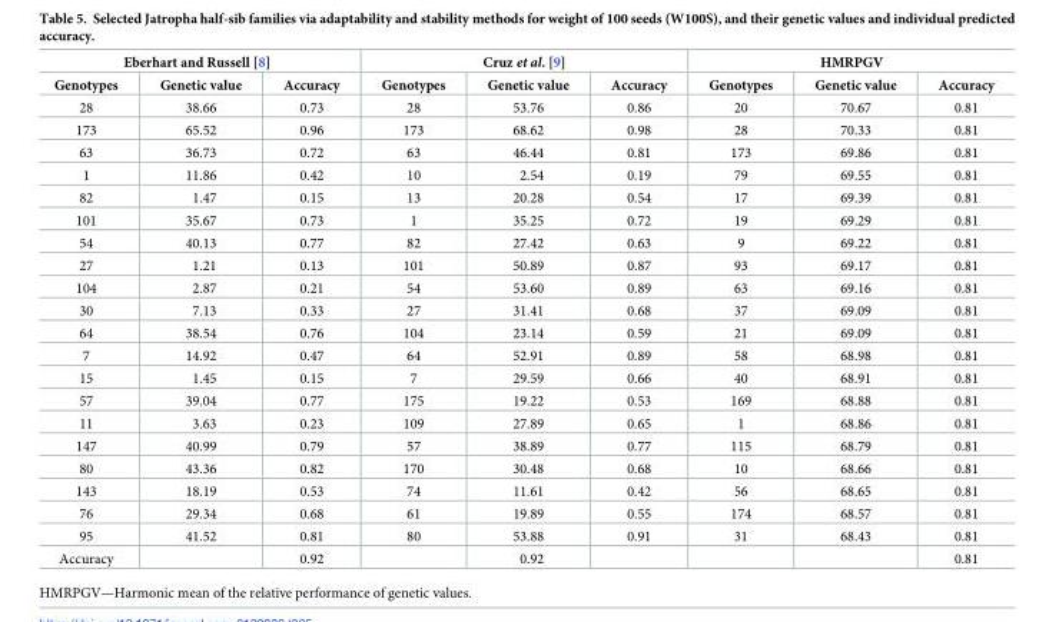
<table><thead><tr><td colspan="3">Eberhart and Russell [8]</td><td colspan="3">Cruz et al. [9]</td><td colspan="3">HMRPGV</td></tr><tr><td>Genotypes</td><td>Genetic value</td><td>Accuracy</td><td>Genotypes</td><td>Genetic value</td><td>Accuracy</td><td>Genotypes</td><td>Genetic value</td><td>Accuracy</td></tr></thead><tbody><tr><td>28</td><td>38.66</td><td>0.73</td><td>28</td><td>53.76</td><td>0.86</td><td>20</td><td>70.67</td><td>0.81</td></tr><tr><td>173</td><td>65.52</td><td>0.96</td><td>173</td><td>68.62</td><td>0.98</td><td>28</td><td>70.33</td><td>0.81</td></tr><tr><td>63</td><td>36.73</td><td>0.72</td><td>63</td><td>46.44</td><td>0.81</td><td>173</td><td>69.86</td><td>0.81</td></tr><tr><td>1</td><td>11.86</td><td>0.42</td><td>10</td><td>2.54</td><td>0.19</td><td>79</td><td>69.55</td><td>0.81</td></tr><tr><td>82</td><td>1.47</td><td>0.15</td><td>13</td><td>20.28</td><td>0.54</td><td>17</td><td>69.39</td><td>0.81</td></tr><tr><td>101</td><td>35.67</td><td>0.73</td><td>1</td><td>35.25</td><td>0.72</td><td>19</td><td>69.29</td><td>0.81</td></tr><tr><td>54</td><td>40.13</td><td>0.77</td><td>82</td><td>27.42</td><td>0.63</td><td>9</td><td>69.22</td><td>0.81</td></tr><tr><td>27</td><td>1.21</td><td>0.13</td><td>101</td><td>50.89</td><td>0.87</td><td>93</td><td>69.17</td><td>0.81</td></tr><tr><td>104</td><td>2.87</td><td>0.21</td><td>54</td><td>53.60</td><td>0.89</td><td>63</td><td>69.16</td><td>0.81</td></tr><tr><td>30</td><td>7.13</td><td>0.33</td><td>27</td><td>31.41</td><td>0.68</td><td>37</td><td>69.09</td><td>0.81</td></tr><tr><td>64</td><td>38.54</td><td>0.76</td><td>104</td><td>23.14</td><td>0.59</td><td>21</td><td>69.09</td><td>0.81</td></tr><tr><td>7</td><td>14.92</td><td>0.47</td><td>64</td><td>52.91</td><td>0.89</td><td>58</td><td>68.98</td><td>0.81</td></tr><tr><td>15</td><td>1.45</td><td>0.15</td><td>7</td><td>29.59</td><td>0.66</td><td>40</td><td>68.91</td><td>0.81</td></tr><tr><td>57</td><td>39.04</td><td>0.77</td><td>175</td><td>19.22</td><td>0.53</td><td>169</td><td>68.88</td><td>0.81</td></tr><tr><td>11</td><td>3.63</td><td>0.23</td><td>109</td><td>27.89</td><td>0.65</td><td>1</td><td>68.86</td><td>0.81</td></tr><tr><td>147</td><td>40.99</td><td>0.79</td><td>57</td><td>38.89</td><td>0.77</td><td>115</td><td>68.79</td><td>0.81</td></tr><tr><td>80</td><td>43.36</td><td>0.82</td><td>170</td><td>30.48</td><td>0.68</td><td>10</td><td>68.66</td><td>0.81</td></tr><tr><td>143</td><td>18.19</td><td>0.53</td><td>74</td><td>11.61</td><td>0.42</td><td>56</td><td>68.65</td><td>0.81</td></tr><tr><td>76</td><td>29.34</td><td>0.68</td><td>61</td><td>19.89</td><td>0.55</td><td>174</td><td>68.57</td><td>0.81</td></tr><tr><td>95</td><td>41.52</td><td>0.81</td><td>80</td><td>53.88</td><td>0.91</td><td>31</td><td>68.43</td><td>0.81</td></tr><tr><td>Accuracy</td><td></td><td>0.92</td><td></td><td>0.92</td><td></td><td></td><td></td><td>0.81</td></tr></tbody></table>